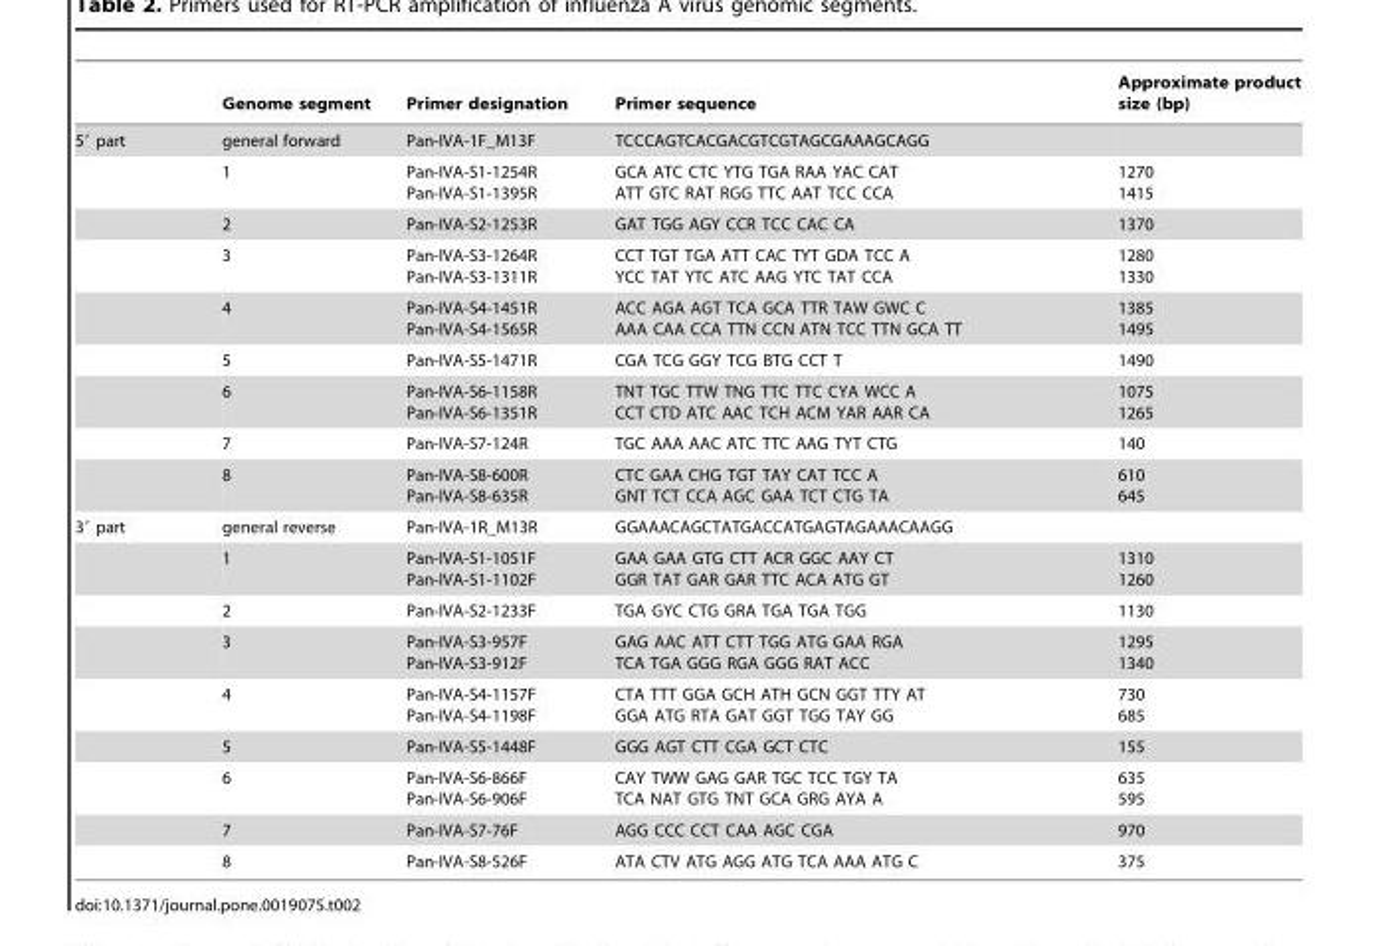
<table><thead><tr><td></td><td>Genome segment</td><td>Primer designation</td><td>Primer sequence</td><td>Approximate product size (bp)</td></tr></thead><tbody><tr><td rowspan="9">5′ part</td><td>general forward</td><td>Pan-IVA-1F_M13F</td><td>TCCCAGTCACGACGTCGTAGCGAAAGCAGG</td><td></td></tr><tr><td>1</td><td>Pan-IVA-S1-1254R Pan-IVA-S1-1395R</td><td>GCA ATC CTC YTG TGA RAA YAC CAT ATT GTC RAT RGG TTC AAT TCC CCA</td><td>1270 1415</td></tr><tr><td>2</td><td>Pan-IVA-S2-1253R</td><td>GAT TGG AGY CCR TCC CAC CA</td><td>1370</td></tr><tr><td>3</td><td>Pan-IVA-S3-1264R Pan-IVA-S3-1311R</td><td>CCT TGT TGA ATT CAC TYT GDA TCC A YCC TAT YTC ATC AAG YTC TAT CCA</td><td>1280 1330</td></tr><tr><td>4</td><td>Pan-IVA-S4-1451R Pan-IVA-S4-1565R</td><td>ACC AGA AGT TCA GCA TTR TAW GWC C AAA CAA CCA TTN CCN ATN TCC TTN GCA TT</td><td>1385 1495</td></tr><tr><td>5</td><td>Pan-IVA-S5-1471R</td><td>CGA TCG GGY TCG BTG CCT T</td><td>1490</td></tr><tr><td>6</td><td>Pan-IVA-S6-1158R Pan-IVA-S6-1351R</td><td>TNT TGC TTW TNG TTC TTC CYA WCC A CCT CTD ATC AAC TCH ACM YAR AAR CA</td><td>1075 1265</td></tr><tr><td>7</td><td>Pan-IVA-S7-124R</td><td>TGC AAA AAC ATC TTC AAG TYT CTG</td><td>140</td></tr><tr><td>8</td><td>Pan-IVA-S8-600R Pan-IVA-S8-635R</td><td>CTC GAA CHG TGT TAY CAT TCC A GNT TCT CCA AGC GAA TCT CTG TA</td><td>610 645</td></tr><tr><td rowspan="9">3′ part</td><td>general reverse</td><td>Pan-IVA-1R_M13R</td><td>GGAAACAGCTATGACCATGAGTAGAAACAAGG</td><td></td></tr><tr><td>1</td><td>Pan-IVA-S1-1051F Pan-IVA-S1-1102F</td><td>GAA GAA GTG CTT ACR GGC AAY CT GGR TAT GAR GAR TTC ACA ATG GT</td><td>1310 1260</td></tr><tr><td>2</td><td>Pan-IVA-S2-1233F</td><td>TGA GYC CTG GRA TGA TGA TGG</td><td>1130</td></tr><tr><td>3</td><td>Pan-IVA-S3-957F Pan-IVA-S3-912F</td><td>GAG AAC ATT CTT TGG ATG GAA RGA TCA TGA GGG RGA GGG RAT ACC</td><td>1295 1340</td></tr><tr><td>4</td><td>Pan-IVA-S4-1157F Pan-IVA-S4-1198F</td><td>CTA TTT GGA GCH ATH GCN GGT TTY AT GGA ATG RTA GAT GGT TGG TAY GG</td><td>730 685</td></tr><tr><td>5</td><td>Pan-IVA-S5-1448F</td><td>GGG AGT CTT CGA GCT CTC</td><td>155</td></tr><tr><td>6</td><td>Pan-IVA-S6-866F Pan-IVA-S6-906F</td><td>CAY TWW GAG GAR TGC TCC TGY TA TCA NAT GTG TNT GCA GRG AYA A</td><td>635 595</td></tr><tr><td>7</td><td>Pan-IVA-S7-76F</td><td>AGG CCC CCT CAA AGC CGA</td><td>970</td></tr><tr><td>8</td><td>Pan-IVA-S8-526F</td><td>ATA CTV ATG AGG ATG TCA AAA ATG C</td><td>375</td></tr></tbody></table>